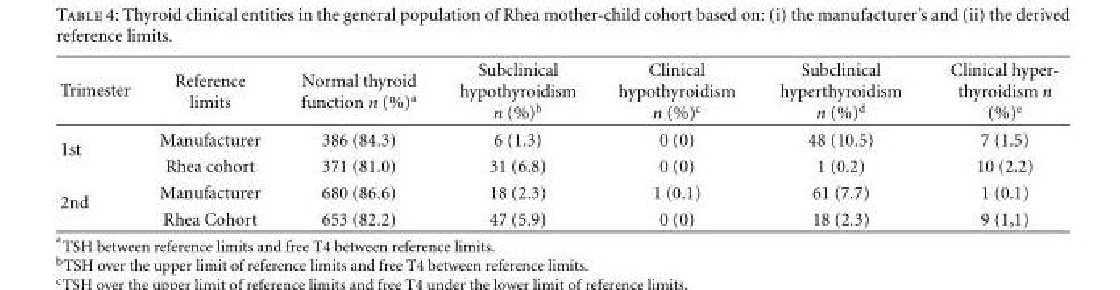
<table><thead><tr><td>Trimester</td><td>Reference limits</td><td>Normal thyroid function n (%)<sup>a</sup></td><td>Subclinical hypothyroidism n (%)<sup>b</sup></td><td>Clinical hypothyroidism n (%)<sup>c</sup></td><td>Subclinical hyperthyroidism n (%)<sup>d</sup></td><td>Clinical hyper- thyroidism n (%)e</td></tr></thead><tbody><tr><td rowspan="2">1st</td><td>Manufacturer</td><td>386 (84.3)</td><td>6 (1.3)</td><td>0 (0)</td><td>48 (10.5)</td><td>7 (1.5)</td></tr><tr><td>Rhea cohort</td><td>371 (81.0)</td><td>31 (6.8)</td><td>0 (0)</td><td>1 (0.2)</td><td>10 (2.2)</td></tr><tr><td rowspan="2">2nd</td><td>Manufacturer</td><td>680 (86.6)</td><td>18 (2.3)</td><td>1 (0.1)</td><td>61 (7.7)</td><td>1 (0.1)</td></tr><tr><td>Rhea Cohort</td><td>653 (82.2)</td><td>47 (5.9)</td><td>0 (0)</td><td>18 (2.3)</td><td>9 (1,1)</td></tr></tbody></table>